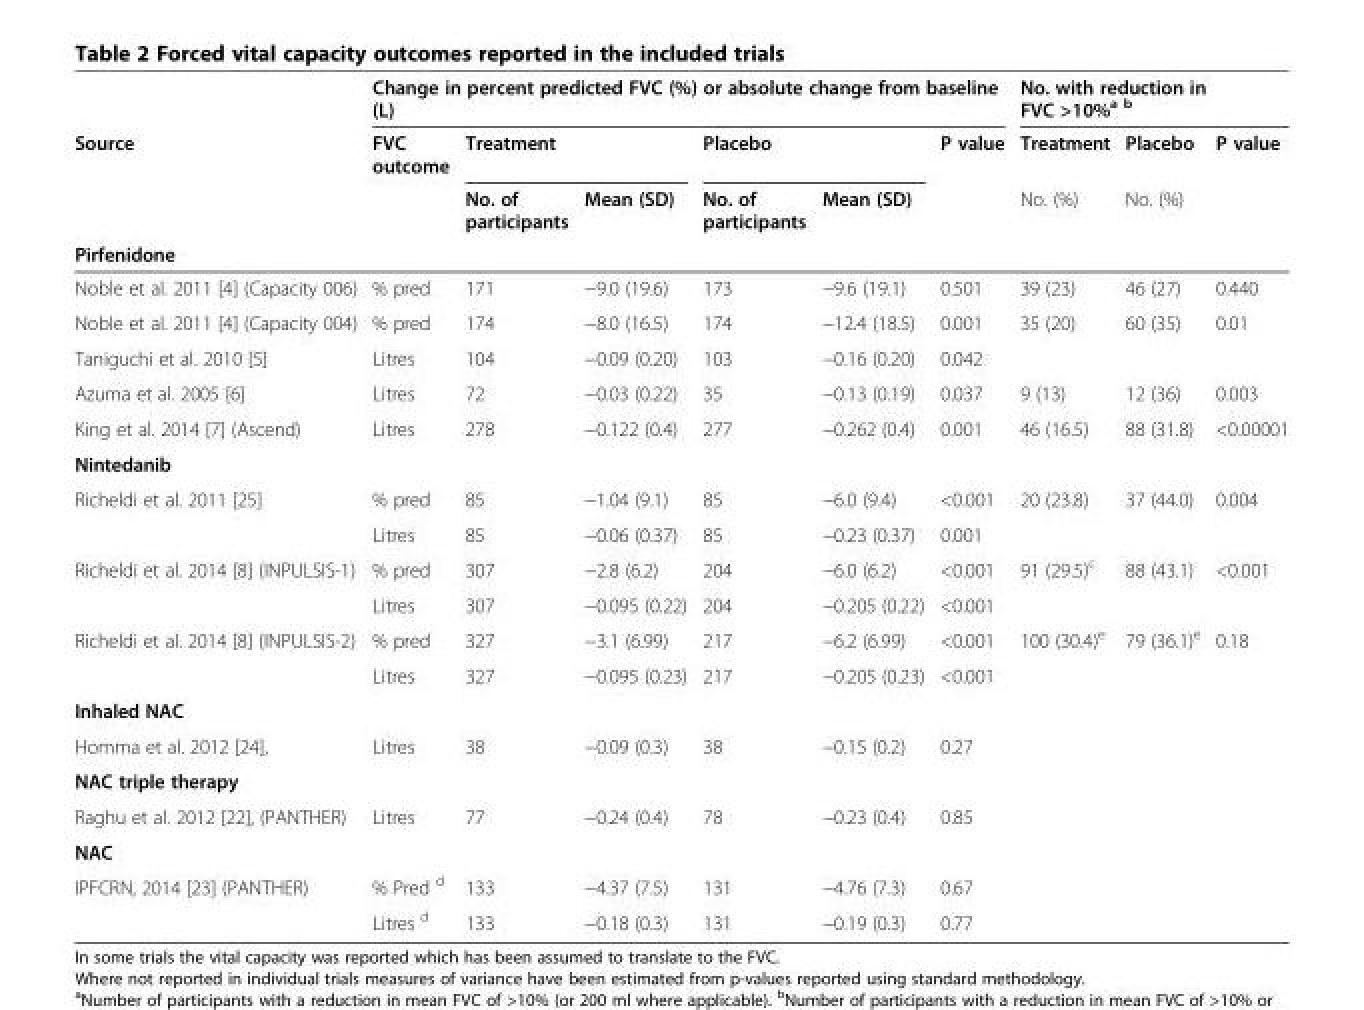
<table><thead><tr><td rowspan="4">Source Pirfenidone</td><td colspan="6">Change in percent predicted FVC (%) or absolute change from baseline (L)</td><td colspan="3">No. with reduction in FVC &gt;10%<sup>a b</sup></td></tr><tr><td rowspan="3">FVC outcome</td><td colspan="2">Treatment</td><td colspan="2">Placebo</td><td rowspan="3">P value</td><td rowspan="3">Treatment No. (%)</td><td rowspan="3">Placebo No. (%)</td><td rowspan="3">P value</td></tr><tr><td rowspan="2">No. of participants</td><td rowspan="2">Mean (SD)</td><td rowspan="2">No. of participants</td><td rowspan="2">Mean (SD)</td></tr><tr></tr></thead><tbody><tr><td>Noble et al. 2011 [4] (Capacity 006)</td><td>% pred</td><td>171</td><td>−9.0 (19.6)</td><td>173</td><td>−9.6 (19.1)</td><td>0.501</td><td>39 (23)</td><td>46 (27)</td><td>0.440</td></tr><tr><td>Noble et al. 2011 [4] (Capacity 004)</td><td>% pred</td><td>174</td><td>−8.0 (16.5)</td><td>174</td><td>−12.4 (18.5)</td><td>0.001</td><td>35 (20)</td><td>60 (35)</td><td>0.01</td></tr><tr><td>Taniguchi et al. 2010 [5]</td><td>Litres</td><td>104</td><td>−0.09 (0.20)</td><td>103</td><td>−0.16 (0.20)</td><td>0.042</td><td></td><td></td><td></td></tr><tr><td>Azuma et al. 2005 [6]</td><td>Litres</td><td>72</td><td>−0.03 (0.22)</td><td>35</td><td>−0.13 (0.19)</td><td>0.037</td><td>9 (13)</td><td>12 (36)</td><td>0.003</td></tr><tr><td>King et al. 2014 [7] (Ascend)</td><td>Litres</td><td>278</td><td>−0.122 (0.4)</td><td>277</td><td>−0.262 (0.4)</td><td>0.001</td><td>46 (16.5)</td><td>88 (31.8)</td><td>&lt;0.00001</td></tr><tr><td colspan="10">Nintedanib</td></tr><tr><td rowspan="2">Richeldi et al. 2011 [25]</td><td>% pred</td><td>85</td><td>−1.04 (9.1)</td><td>85</td><td>−6.0 (9.4)</td><td>&lt;0.001</td><td>20 (23.8)</td><td>37 (44.0)</td><td>0.004</td></tr><tr><td>Litres</td><td>85</td><td>−0.06 (0.37)</td><td>85</td><td>−0.23 (0.37)</td><td>0.001</td><td></td><td></td><td></td></tr><tr><td rowspan="2">Richeldi et al. 2014 [8] (INPULSIS-1)</td><td>% pred</td><td>307</td><td>−2.8 (6.2)</td><td>204</td><td>−6.0 (6.2)</td><td>&lt;0.001</td><td>91 (29.5)<sup>c</sup></td><td>88 (43.1)</td><td>&lt;0.001</td></tr><tr><td>Litres</td><td>307</td><td>−0.095 (0.22)</td><td>204</td><td>−0.205 (0.22)</td><td>&lt;0.001</td><td></td><td></td><td></td></tr><tr><td rowspan="2">Richeldi et al. 2014 [8] (INPULSIS-2)</td><td>% pred</td><td>327</td><td>−3.1 (6.99)</td><td>217</td><td>−6.2 (6.99)</td><td>&lt;0.001</td><td>100 (30.4)<sup>e</sup></td><td>79 (36.1)<sup>e</sup></td><td>0.18</td></tr><tr><td>Litres</td><td>327</td><td>−0.095 (0.23)</td><td>217</td><td>−0.205 (0.23)</td><td>&lt;0.001</td><td></td><td></td><td></td></tr><tr><td colspan="10">Inhaled NAC</td></tr><tr><td>Homma et al. 2012 [24],</td><td>Litres</td><td>38</td><td>−0.09 (0.3)</td><td>38</td><td>−0.15 (0.2)</td><td>0.27</td><td></td><td></td><td></td></tr><tr><td colspan="10">NAC triple therapy</td></tr><tr><td>Raghu et al. 2012 [22], (PANTHER)</td><td>Litres</td><td>77</td><td>−0.24 (0.4)</td><td>78</td><td>−0.23 (0.4)</td><td>0.85</td><td></td><td></td><td></td></tr><tr><td colspan="10">NAC</td></tr><tr><td rowspan="2">IPFCRN, 2014 [23] (PANTHER)</td><td>% Pred <sup>d</sup></td><td>133</td><td>−4.37 (7.5)</td><td>131</td><td>−4.76 (7.3)</td><td>0.67</td><td></td><td></td><td></td></tr><tr><td>Litres <sup>d</sup></td><td>133</td><td>−0.18 (0.3)</td><td>131</td><td>−0.19 (0.3)</td><td>0.77</td><td></td><td></td><td></td></tr></tbody></table>